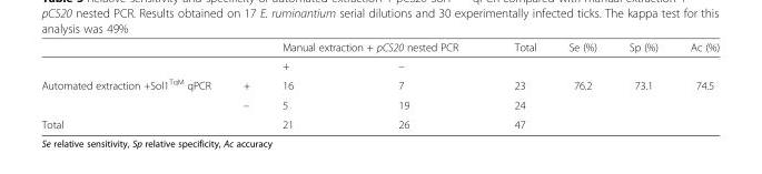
<table><thead><tr><td rowspan="2"></td><td rowspan="2"></td><td colspan="2">Manual extraction + pCS20 nested PCR</td><td rowspan="2">Total</td><td rowspan="2">Se (%)</td><td rowspan="2">Sp (%)</td><td rowspan="2">Ac (%)</td></tr><tr><td>+</td><td>–</td></tr></thead><tbody><tr><td rowspan="2">Automated extraction +Sol1<sup>TqM</sup> qPCR</td><td>+</td><td>16</td><td>7</td><td>23</td><td>76.2</td><td>73.1</td><td>74.5</td></tr><tr><td>–</td><td>5</td><td>19</td><td>24</td><td></td><td></td><td></td></tr><tr><td colspan="2">Total</td><td>21</td><td>26</td><td>47</td><td></td><td></td><td></td></tr></tbody></table>